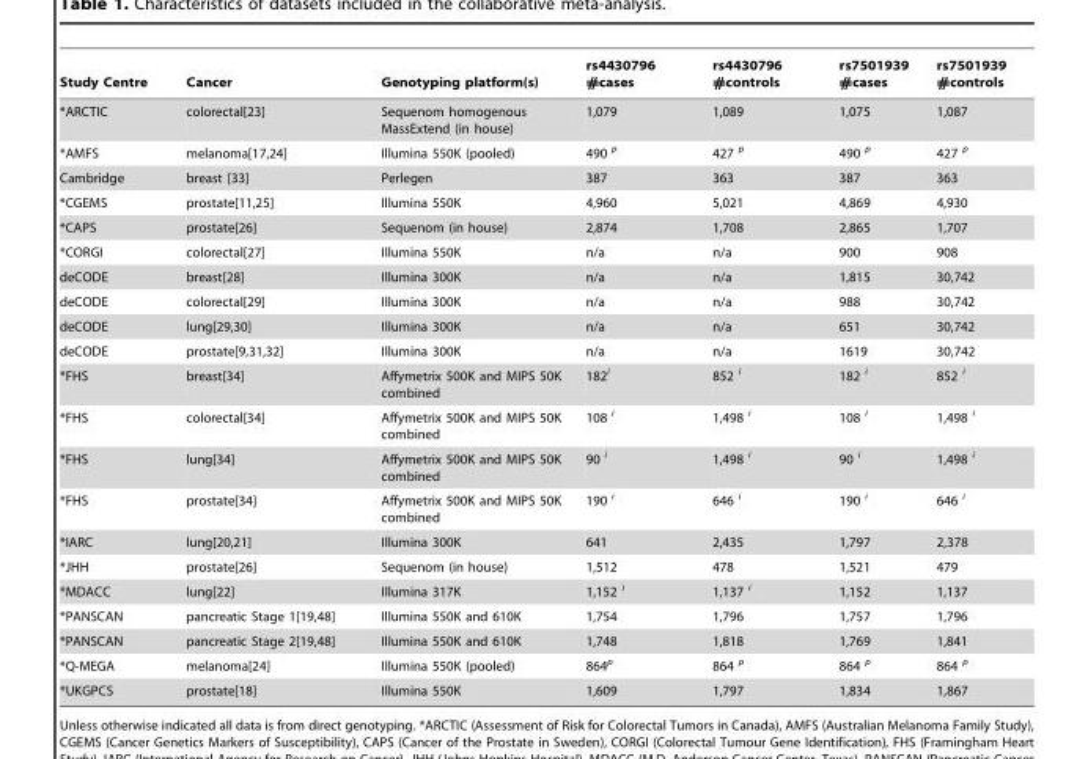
<table><thead><tr><td>Study Centre</td><td>Cancer</td><td>Genotyping platform(s)</td><td>rs4430796 #cases</td><td>rs4430796 #controls</td><td>rs7501939 #cases</td><td>rs7501939 #controls</td></tr></thead><tbody><tr><td>*ARCTIC</td><td>colorectal[23]</td><td>Sequenom homogenous MassExtend (in house)</td><td>1,079</td><td>1,089</td><td>1,075</td><td>1,087</td></tr><tr><td>*AMFS</td><td>melanoma[17,24]</td><td>Illumina 550K (pooled)</td><td>490 <sup>p</sup></td><td>427 <sup>p</sup></td><td>490 <sup>p</sup></td><td>427 <sup>p</sup></td></tr><tr><td>Cambridge</td><td>breast [33]</td><td>Perlegen</td><td>387</td><td>363</td><td>387</td><td>363</td></tr><tr><td>*CGEMS</td><td>prostate[11,25]</td><td>Illumina 550K</td><td>4,960</td><td>5,021</td><td>4,869</td><td>4,930</td></tr><tr><td>*CAPS</td><td>prostate[26]</td><td>Sequenom (in house)</td><td>2,874</td><td>1,708</td><td>2,865</td><td>1,707</td></tr><tr><td>*CORGI</td><td>colorectal[27]</td><td>Illumina 550K</td><td>n/a</td><td>n/a</td><td>900</td><td>908</td></tr><tr><td>deCODE</td><td>breast[28]</td><td>Illumina 300K</td><td>n/a</td><td>n/a</td><td>1,815</td><td>30,742</td></tr><tr><td>deCODE</td><td>colorectal[29]</td><td>Illumina 300K</td><td>n/a</td><td>n/a</td><td>988</td><td>30,742</td></tr><tr><td>deCODE</td><td>lung[29,30]</td><td>Illumina 300K</td><td>n/a</td><td>n/a</td><td>651</td><td>30,742</td></tr><tr><td>deCODE</td><td>prostate[9,31,32]</td><td>Illumina 300K</td><td>n/a</td><td>n/a</td><td>1619</td><td>30,742</td></tr><tr><td>*FHS</td><td>breast[34]</td><td>Affymetrix 500K and MIPS 50K combined</td><td>182<sup>i</sup></td><td>852 <sup>i</sup></td><td>182 <sup>i</sup></td><td>852 <sup>i</sup></td></tr><tr><td>*FHS</td><td>colorectal[34]</td><td>Affymetrix 500K and MIPS 50K combined</td><td>108 <sup>i</sup></td><td>1,498 <sup>i</sup></td><td>108 <sup>i</sup></td><td>1,498 <sup>i</sup></td></tr><tr><td>*FHS</td><td>lung[34]</td><td>Affymetrix 500K and MIPS 50K combined</td><td>90 <sup>i</sup></td><td>1,498 <sup>i</sup></td><td>90 <sup>i</sup></td><td>1,498 <sup>i</sup></td></tr><tr><td>*FHS</td><td>prostate[34]</td><td>Affymetrix 500K and MIPS 50K combined</td><td>190 <sup>i</sup></td><td>646 <sup>i</sup></td><td>190 <sup>i</sup></td><td>646 <sup>i</sup></td></tr><tr><td>*IARC</td><td>lung[20,21]</td><td>Illumina 300K</td><td>641</td><td>2,435</td><td>1,797</td><td>2,378</td></tr><tr><td>*JHH</td><td>prostate[26]</td><td>Sequenom (in house)</td><td>1,512</td><td>478</td><td>1,521</td><td>479</td></tr><tr><td>*MDACC</td><td>lung[22]</td><td>Illumina 317K</td><td>1,152 <sup>i</sup></td><td>1,137 <sup>i</sup></td><td>1,152</td><td>1,137</td></tr><tr><td>*PANSCAN</td><td>pancreatic Stage 1[19,48]</td><td>Illumina 550K and 610K</td><td>1,754</td><td>1,796</td><td>1,757</td><td>1,796</td></tr><tr><td>*PANSCAN</td><td>pancreatic Stage 2[19,48]</td><td>Illumina 550K and 610K</td><td>1,748</td><td>1,818</td><td>1,769</td><td>1,841</td></tr><tr><td>*Q-MEGA</td><td>melanoma[24]</td><td>Illumina 550K (pooled)</td><td>864<sup>p</sup></td><td>864 <sup>p</sup></td><td>864 <sup>p</sup></td><td>864 <sup>p</sup></td></tr><tr><td>*UKGPCS</td><td>prostate[18]</td><td>Illumina 550K</td><td>1,609</td><td>1,797</td><td>1,834</td><td>1,867</td></tr></tbody></table>